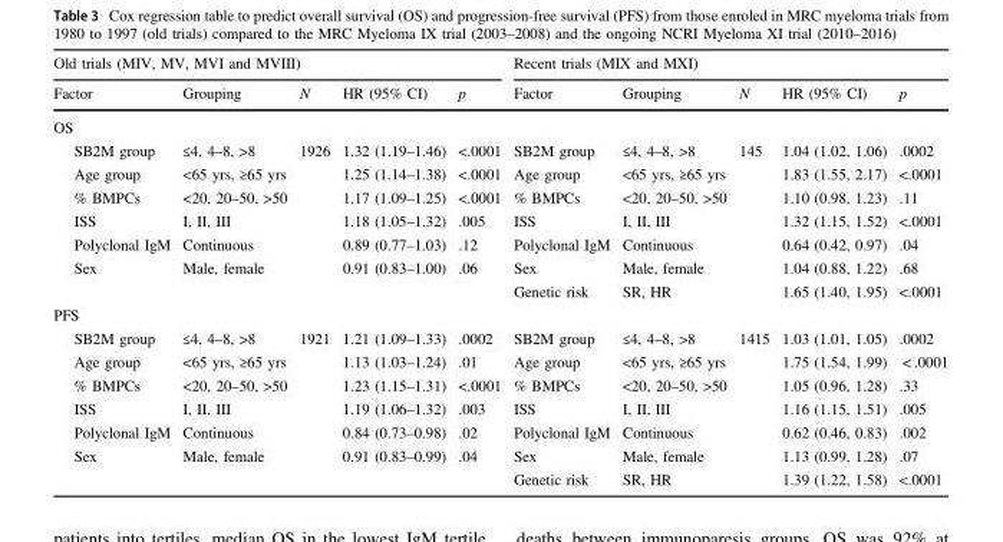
<table><thead><tr><td colspan="5">Old trials (MIV, MV, MVI and MVIII)</td><td colspan="5">Recent trials (MIX and MXI)</td></tr><tr><td>Factor</td><td>Grouping</td><td>N</td><td>HR (95% CI)</td><td>p</td><td>Factor</td><td>Grouping</td><td>N</td><td>HR (95% CI)</td><td>p</td></tr></thead><tbody><tr><td colspan="10">OS</td></tr><tr><td>SB2M group</td><td>≤4, 4–8, &gt;8</td><td>1926</td><td>1.32 (1.19–1.46)</td><td>&lt;.0001</td><td>SB2M group</td><td>≤4, 4–8, &gt;8</td><td>145</td><td>1.04 (1.02, 1.06)</td><td>.0002</td></tr><tr><td>Age group</td><td>&lt;65 yrs, ≥65 yrs</td><td></td><td>1.25 (1.14–1.38)</td><td>&lt;.0001</td><td>Age group</td><td>&lt;65 yrs, ≥65 yrs</td><td></td><td>1.83 (1.55, 2.17)</td><td>&lt;.0001</td></tr><tr><td>% BMPCs</td><td>&lt;20, 20–50, &gt;50</td><td></td><td>1.17 (1.09–1.25)</td><td>&lt;.0001</td><td>% BMPCs</td><td>&lt;20, 20–50, &gt;50</td><td></td><td>1.10 (0.98, 1.23)</td><td>.11</td></tr><tr><td>ISS</td><td>I, II, III</td><td></td><td>1.18 (1.05–1.32)</td><td>.005</td><td>ISS</td><td>I, II, III</td><td></td><td>1.32 (1.15, 1.52)</td><td>&lt;.0001</td></tr><tr><td>Polyclonal IgM</td><td>Continuous</td><td></td><td>0.89 (0.77–1.03)</td><td>.12</td><td>Polyclonal IgM</td><td>Continuous</td><td></td><td>0.64 (0.42, 0.97)</td><td>.04</td></tr><tr><td rowspan="2">Sex</td><td>Male, female</td><td></td><td>0.91 (0.83–1.00)</td><td>.06</td><td>Sex</td><td>Male, female</td><td></td><td>1.04 (0.88, 1.22)</td><td>.68</td></tr><tr><td></td><td></td><td></td><td></td><td>Genetic risk</td><td>SR, HR</td><td></td><td>1.65 (1.40, 1.95)</td><td>&lt;.0001</td></tr><tr><td colspan="10">PFS</td></tr><tr><td>SB2M group</td><td>≤4, 4–8, &gt;8</td><td>1921</td><td>1.21 (1.09–1.33)</td><td>.0002</td><td>SB2M group</td><td>≤4, 4–8, &gt;8</td><td>1415</td><td>1.03 (1.01, 1.05)</td><td>.0002</td></tr><tr><td>Age group</td><td>&lt;65 yrs, ≥65 yrs</td><td></td><td>1.13 (1.03–1.24)</td><td>.01</td><td>Age group</td><td>&lt;65 yrs, ≥65 yrs</td><td></td><td>1.75 (1.54, 1.99)</td><td>&lt; .0001</td></tr><tr><td>% BMPCs</td><td>&lt;20, 20–50, &gt;50</td><td></td><td>1.23 (1.15–1.31)</td><td>&lt;.0001</td><td>% BMPCs</td><td>&lt;20, 20–50, &gt;50</td><td></td><td>1.05 (0.96, 1.28)</td><td>.33</td></tr><tr><td>ISS</td><td>I, II, III</td><td></td><td>1.19 (1.06–1.32)</td><td>.003</td><td>ISS</td><td>I, II, III</td><td></td><td>1.16 (1.15, 1.51)</td><td>.005</td></tr><tr><td>Polyclonal IgM</td><td>Continuous</td><td></td><td>0.84 (0.73–0.98)</td><td>.02</td><td>Polyclonal IgM</td><td>Continuous</td><td></td><td>0.62 (0.46, 0.83)</td><td>.002</td></tr><tr><td rowspan="2">Sex</td><td>Male, female</td><td></td><td>0.91 (0.83–0.99)</td><td>.04</td><td>Sex</td><td>Male, female</td><td></td><td>1.13 (0.99, 1.28)</td><td>.07</td></tr><tr><td></td><td></td><td></td><td></td><td>Genetic risk</td><td>SR, HR</td><td></td><td>1.39 (1.22, 1.58)</td><td>&lt;.0001</td></tr></tbody></table>